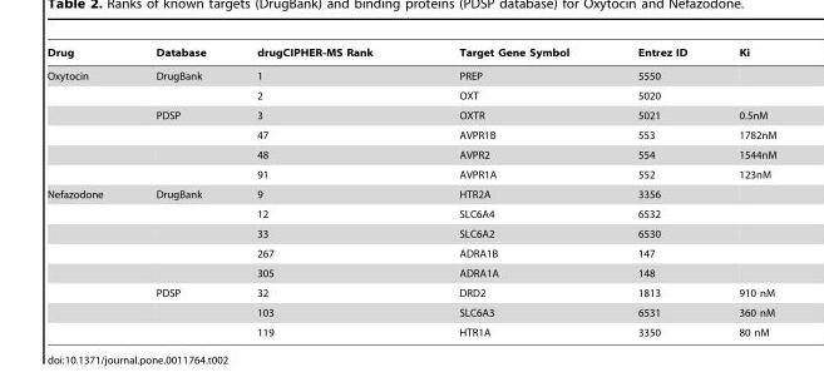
<table><thead><tr><td>Drug</td><td>Database</td><td>drugCIPHER-MS Rank</td><td>Target Gene Symbol</td><td>Entrez ID</td><td>Ki</td></tr></thead><tbody><tr><td rowspan="6">Oxytocin</td><td>DrugBank</td><td>1</td><td>PREP</td><td>5550</td><td></td></tr><tr><td></td><td>2</td><td>OXT</td><td>5020</td><td></td></tr><tr><td>PDSP</td><td>3</td><td>OXTR</td><td>5021</td><td>0.5nM</td></tr><tr><td></td><td>47</td><td>AVPR1B</td><td>553</td><td>1782nM</td></tr><tr><td></td><td>48</td><td>AVPR2</td><td>554</td><td>1544nM</td></tr><tr><td></td><td>91</td><td>AVPR1A</td><td>552</td><td>123nM</td></tr><tr><td rowspan="8">Nefazodone</td><td>DrugBank</td><td>9</td><td>HTR2A</td><td>3356</td><td></td></tr><tr><td></td><td>12</td><td>SLC6A4</td><td>6532</td><td></td></tr><tr><td></td><td>33</td><td>SLC6A2</td><td>6530</td><td></td></tr><tr><td></td><td>267</td><td>ADRA1B</td><td>147</td><td></td></tr><tr><td></td><td>305</td><td>ADRA1A</td><td>148</td><td></td></tr><tr><td>PDSP</td><td>32</td><td>DRD2</td><td>1813</td><td>910 nM</td></tr><tr><td></td><td>103</td><td>SLC6A3</td><td>6531</td><td>360 nM</td></tr><tr><td></td><td>119</td><td>HTR1A</td><td>3350</td><td>80 nM</td></tr></tbody></table>